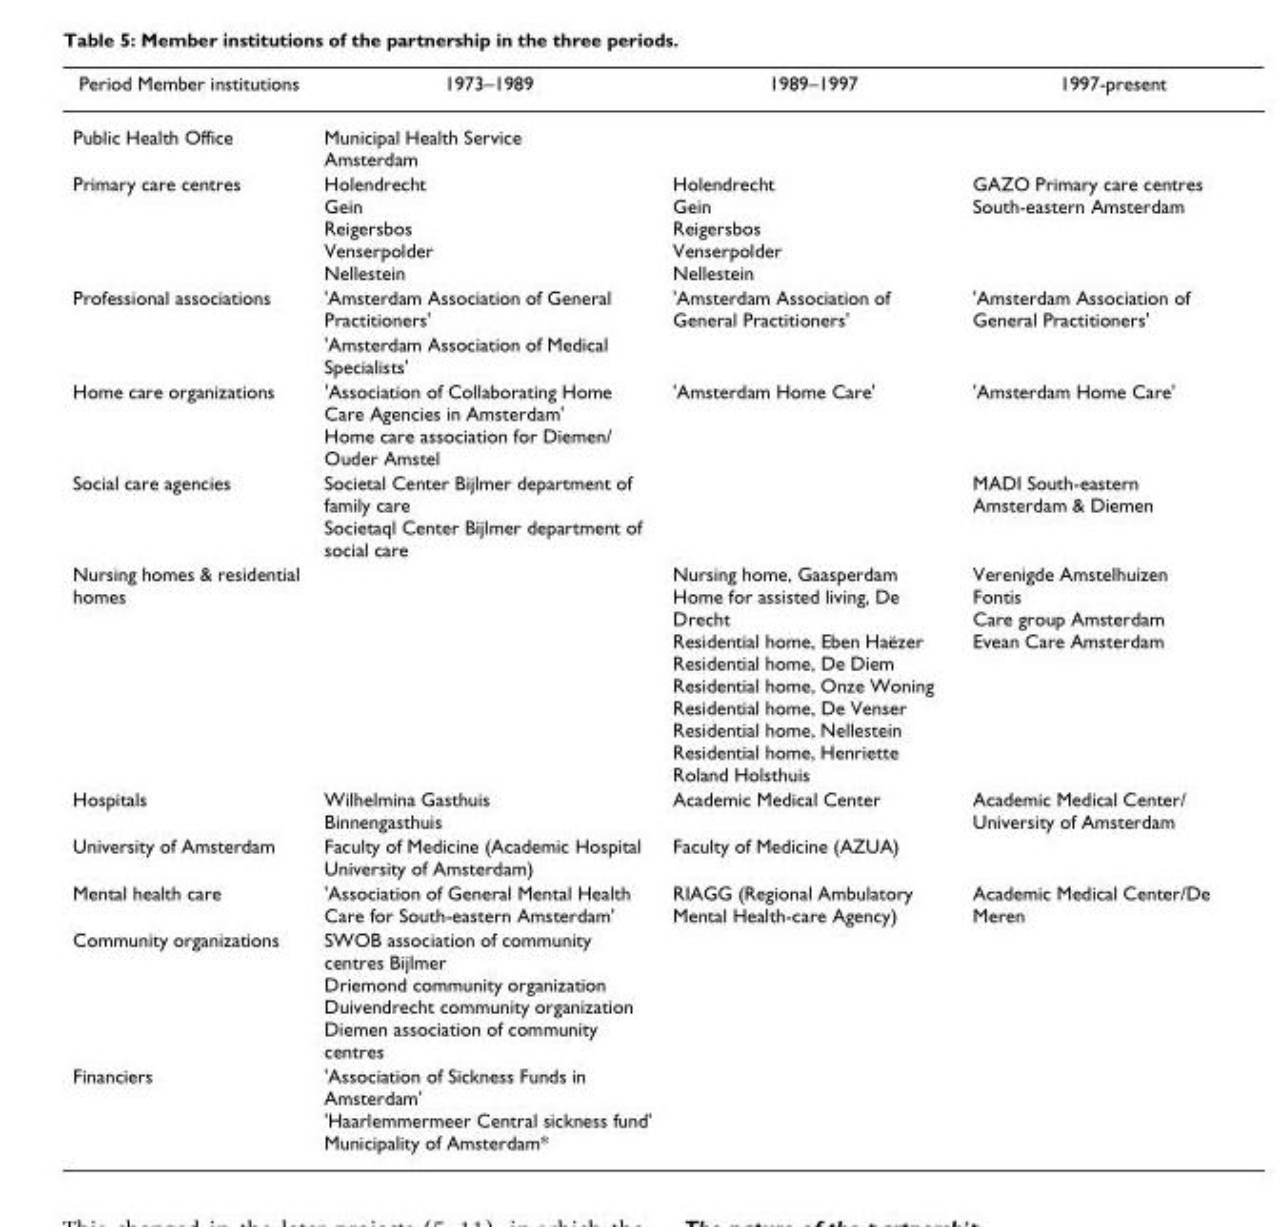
<table><thead><tr><td>Period Member institutions</td><td>1973–1989</td><td>1989–1997</td><td>1997-present</td></tr></thead><tbody><tr><td>Public Health Office</td><td>Municipal Health Service Amsterdam</td><td></td><td></td></tr><tr><td>Primary care centres</td><td>Holendrecht Gein Reigersbos Venserpolder Nellestein</td><td>Holendrecht Gein Reigersbos Venserpolder Nellestein</td><td>GAZO Primary care centres South-eastern Amsterdam</td></tr><tr><td rowspan="2">Professional associations</td><td>&#x27;Amsterdam Association of General Practitioners&#x27;</td><td>&#x27;Amsterdam Association of General Practitioners&#x27;</td><td>&#x27;Amsterdam Association of General Practitioners&#x27;</td></tr><tr><td>&#x27;Amsterdam Association of Medical Specialists&#x27;</td><td></td><td></td></tr><tr><td>Home care organizations</td><td>&#x27;Association of Collaborating Home Care Agencies in Amsterdam&#x27; Home care association for Diemen/ Ouder Amstel</td><td>&#x27;Amsterdam Home Care&#x27;</td><td>&#x27;Amsterdam Home Care&#x27;</td></tr><tr><td>Social care agencies</td><td>Societal Center Bijlmer department of family care Societaql Center Bijlmer department of social care</td><td></td><td>MADI South-eastern Amsterdam &amp; Diemen</td></tr><tr><td>Nursing homes &amp; residential homes</td><td></td><td>Nursing home, Gaasperdam Home for assisted living, De Drecht Residential home, Eben Haëzer Residential home, De Diem Residential home, Onze Woning Residential home, De Venser Residential home, Nellestein Residential home, Henriette Roland Holsthuis</td><td>Verenigde Amstelhuizen Fontis Care group Amsterdam Evean Care Amsterdam</td></tr><tr><td>Hospitals</td><td>Wilhelmina Gasthuis Binnengasthuis</td><td>Academic Medical Center</td><td>Academic Medical Center/ University of Amsterdam</td></tr><tr><td>University of Amsterdam</td><td>Faculty of Medicine (Academic Hospital University of Amsterdam)</td><td>Faculty of Medicine (AZUA)</td><td></td></tr><tr><td>Mental health care</td><td>&#x27;Association of General Mental Health Care for South-eastern Amsterdam&#x27;</td><td>RIAGG (Regional Ambulatory Mental Health-care Agency)</td><td>Academic Medical Center/De Meren</td></tr><tr><td>Community organizations</td><td>SWOB association of community centres Bijlmer Driemond community organization Duivendrecht community organization Diemen association of community centres</td><td></td><td></td></tr><tr><td>Financiers</td><td>&#x27;Association of Sickness Funds in Amsterdam&#x27; &#x27;Haarlemmermeer Central sickness fund&#x27; Municipality of Amsterdam*</td><td></td><td></td></tr></tbody></table>